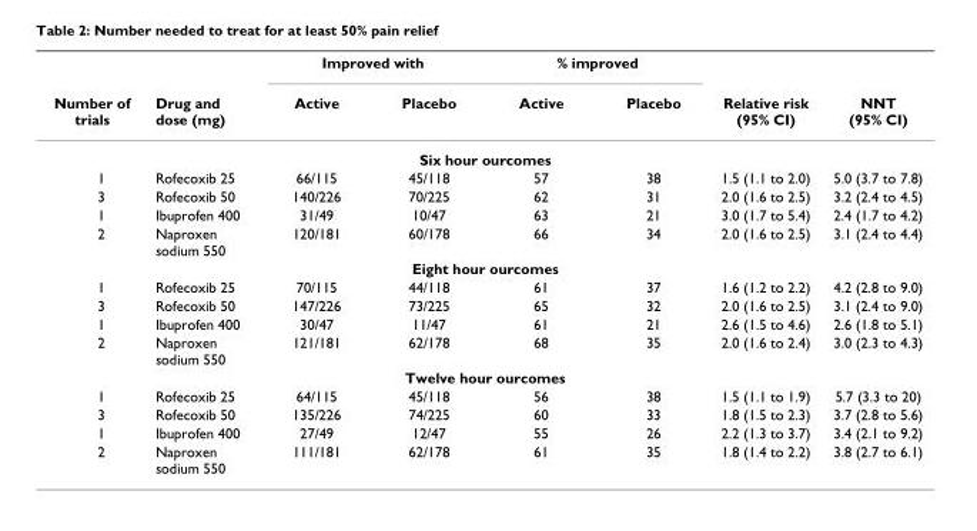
<table><thead><tr><td rowspan="2">Number of trials</td><td rowspan="2">Drug and dose (mg)</td><td colspan="2">Improved with</td><td colspan="2">% improved</td><td rowspan="2">Relative risk (95% CI)</td><td rowspan="2">NNT (95% CI)</td></tr><tr><td>Active</td><td>Placebo</td><td>Active</td><td>Placebo</td></tr></thead><tbody><tr><td colspan="8">Six hour ourcomes</td></tr><tr><td>1</td><td>Rofecoxib 25</td><td>66/115</td><td>45/118</td><td>57</td><td>38</td><td>1.5 (1.1 to 2.0)</td><td>5.0 (3.7 to 7.8)</td></tr><tr><td>3</td><td>Rofecoxib 50</td><td>140/226</td><td>70/225</td><td>62</td><td>31</td><td>2.0 (1.6 to 2.5)</td><td>3.2 (2.4 to 4.5)</td></tr><tr><td>1</td><td>Ibuprofen 400</td><td>31/49</td><td>10/47</td><td>63</td><td>21</td><td>3.0 (1.7 to 5.4)</td><td>2.4 (1.7 to 4.2)</td></tr><tr><td>2</td><td>Naproxen sodium 550</td><td>120/181</td><td>60/178</td><td>66</td><td>34</td><td>2.0 (1.6 to 2.5)</td><td>3.1 (2.4 to 4.4)</td></tr><tr><td colspan="8">Eight hour ourcomes</td></tr><tr><td>1</td><td>Rofecoxib 25</td><td>70/115</td><td>44/118</td><td>61</td><td>37</td><td>1.6 (1.2 to 2.2)</td><td>4.2 (2.8 to 9.0)</td></tr><tr><td>3</td><td>Rofecoxib 50</td><td>147/226</td><td>73/225</td><td>65</td><td>32</td><td>2.0 (1.6 to 2.5)</td><td>3.1 (2.4 to 9.0)</td></tr><tr><td>1</td><td>Ibuprofen 400</td><td>30/47</td><td>11/47</td><td>61</td><td>21</td><td>2.6 (1.5 to 4.6)</td><td>2.6 (1.8 to 5.1)</td></tr><tr><td>2</td><td>Naproxen sodium 550</td><td>121/181</td><td>62/178</td><td>68</td><td>35</td><td>2.0 (1.6 to 2.4)</td><td>3.0 (2.3 to 4.3)</td></tr><tr><td colspan="8">Twelve hour ourcomes</td></tr><tr><td>1</td><td>Rofecoxib 25</td><td>64/115</td><td>45/118</td><td>56</td><td>38</td><td>1.5 (1.1 to 1.9)</td><td>5.7 (3.3 to 20)</td></tr><tr><td>3</td><td>Rofecoxib 50</td><td>135/226</td><td>74/225</td><td>60</td><td>33</td><td>1.8 (1.5 to 2.3)</td><td>3.7 (2.8 to 5.6)</td></tr><tr><td>1</td><td>Ibuprofen 400</td><td>27/49</td><td>12/47</td><td>55</td><td>26</td><td>2.2 (1.3 to 3.7)</td><td>3.4 (2.1 to 9.2)</td></tr><tr><td>2</td><td>Naproxen sodium 550</td><td>111/181</td><td>62/178</td><td>61</td><td>35</td><td>1.8 (1.4 to 2.2)</td><td>3.8 (2.7 to 6.1)</td></tr></tbody></table>